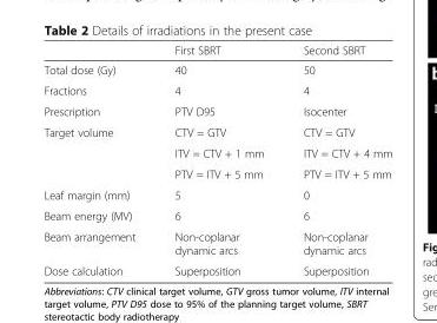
<table><thead><tr><td></td><td>First SBRT</td><td>Second SBRT</td></tr></thead><tbody><tr><td>Total dose (Gy)</td><td>40</td><td>50</td></tr><tr><td>Fractions</td><td>4</td><td>4</td></tr><tr><td>Prescription</td><td>PTV D95</td><td>Isocenter</td></tr><tr><td rowspan="3">Target volume</td><td>CTV = GTV</td><td>CTV = GTV</td></tr><tr><td>ITV = CTV + 1 mm</td><td>ITV = CTV + 4 mm</td></tr><tr><td>PTV = ITV + 5 mm</td><td>PTV = ITV + 5 mm</td></tr><tr><td>Leaf margin (mm)</td><td>5</td><td>0</td></tr><tr><td>Beam energy (MV)</td><td>6</td><td>6</td></tr><tr><td>Beam arrangement</td><td>Non-coplanar dynamic arcs</td><td>Non-coplanar dynamic arcs</td></tr><tr><td>Dose calculation</td><td>Superposition</td><td>Superposition</td></tr></tbody></table>